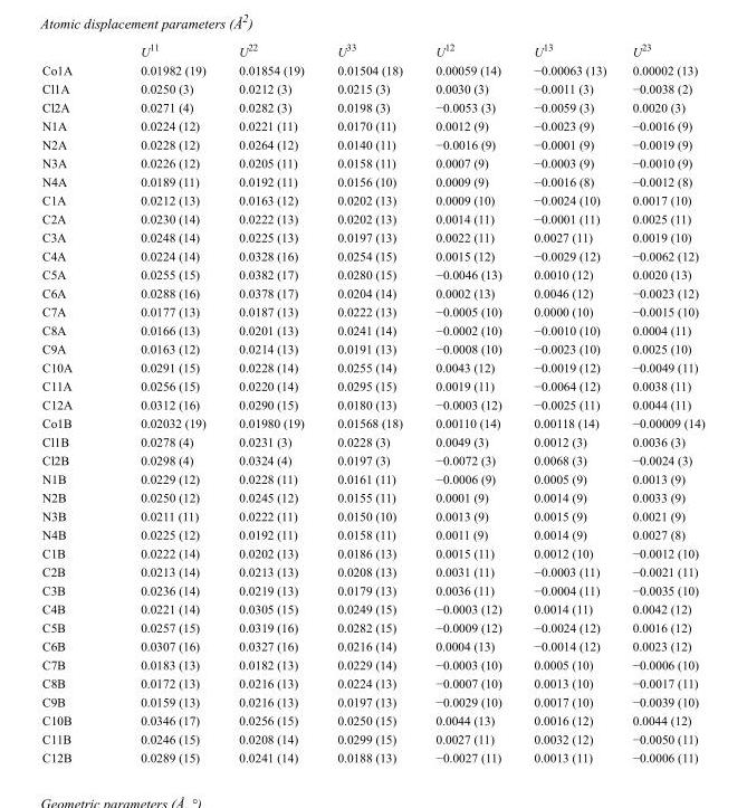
<table><thead><tr><td></td><td>U<sup>11</sup></td><td>U<sup>22</sup></td><td>U<sup>33</sup></td><td>U<sup>12</sup></td><td>U<sup>13</sup></td><td>U<sup>23</sup></td></tr></thead><tbody><tr><td>Co1A</td><td>0.01982 (19)</td><td>0.01854 (19)</td><td>0.01504 (18)</td><td>0.00059 (14)</td><td>−0.00063 (13)</td><td>0.00002 (13)</td></tr><tr><td>Cl1A</td><td>0.0250 (3)</td><td>0.0212 (3)</td><td>0.0215 (3)</td><td>0.0030 (3)</td><td>−0.0011 (3)</td><td>−0.0038 (2)</td></tr><tr><td>Cl2A</td><td>0.0271 (4)</td><td>0.0282 (3)</td><td>0.0198 (3)</td><td>−0.0053 (3)</td><td>−0.0059 (3)</td><td>0.0020 (3)</td></tr><tr><td>N1A</td><td>0.0224 (12)</td><td>0.0221 (11)</td><td>0.0170 (11)</td><td>0.0012 (9)</td><td>−0.0023 (9)</td><td>−0.0016 (9)</td></tr><tr><td>N2A</td><td>0.0228 (12)</td><td>0.0264 (12)</td><td>0.0140 (11)</td><td>−0.0016 (9)</td><td>−0.0001 (9)</td><td>−0.0019 (9)</td></tr><tr><td>N3A</td><td>0.0226 (12)</td><td>0.0205 (11)</td><td>0.0158 (11)</td><td>0.0007 (9)</td><td>−0.0003 (9)</td><td>−0.0010 (9)</td></tr><tr><td>N4A</td><td>0.0189 (11)</td><td>0.0192 (11)</td><td>0.0156 (10)</td><td>0.0009 (9)</td><td>−0.0016 (8)</td><td>−0.0012 (8)</td></tr><tr><td>C1A</td><td>0.0212 (13)</td><td>0.0163 (12)</td><td>0.0202 (13)</td><td>0.0009 (10)</td><td>−0.0024 (10)</td><td>0.0017 (10)</td></tr><tr><td>C2A</td><td>0.0230 (14)</td><td>0.0222 (13)</td><td>0.0202 (13)</td><td>0.0014 (11)</td><td>−0.0001 (11)</td><td>0.0025 (11)</td></tr><tr><td>C3A</td><td>0.0248 (14)</td><td>0.0225 (13)</td><td>0.0197 (13)</td><td>0.0022 (11)</td><td>0.0027 (11)</td><td>0.0019 (10)</td></tr><tr><td>C4A</td><td>0.0224 (14)</td><td>0.0328 (16)</td><td>0.0254 (15)</td><td>0.0015 (12)</td><td>−0.0029 (12)</td><td>−0.0062 (12)</td></tr><tr><td>C5A</td><td>0.0255 (15)</td><td>0.0382 (17)</td><td>0.0280 (15)</td><td>−0.0046 (13)</td><td>0.0010 (12)</td><td>0.0020 (13)</td></tr><tr><td>C6A</td><td>0.0288 (16)</td><td>0.0378 (17)</td><td>0.0204 (14)</td><td>0.0002 (13)</td><td>0.0046 (12)</td><td>−0.0023 (12)</td></tr><tr><td>C7A</td><td>0.0177 (13)</td><td>0.0187 (13)</td><td>0.0222 (13)</td><td>−0.0005 (10)</td><td>0.0000 (10)</td><td>−0.0015 (10)</td></tr><tr><td>C8A</td><td>0.0166 (13)</td><td>0.0201 (13)</td><td>0.0241 (14)</td><td>−0.0002 (10)</td><td>−0.0010 (10)</td><td>0.0004 (11)</td></tr><tr><td>C9A</td><td>0.0163 (12)</td><td>0.0214 (13)</td><td>0.0191 (13)</td><td>−0.0008 (10)</td><td>−0.0023 (10)</td><td>0.0025 (10)</td></tr><tr><td>C10A</td><td>0.0291 (15)</td><td>0.0228 (14)</td><td>0.0255 (14)</td><td>0.0043 (12)</td><td>−0.0019 (12)</td><td>−0.0049 (11)</td></tr><tr><td>C11A</td><td>0.0256 (15)</td><td>0.0220 (14)</td><td>0.0295 (15)</td><td>0.0019 (11)</td><td>−0.0064 (12)</td><td>0.0038 (11)</td></tr><tr><td>C12A</td><td>0.0312 (16)</td><td>0.0290 (15)</td><td>0.0180 (13)</td><td>−0.0003 (12)</td><td>−0.0025 (11)</td><td>0.0044 (11)</td></tr><tr><td>Co1B</td><td>0.02032 (19)</td><td>0.01980 (19)</td><td>0.01568 (18)</td><td>0.00110 (14)</td><td>0.00118 (14)</td><td>−0.00009 (14)</td></tr><tr><td>Cl1B</td><td>0.0278 (4)</td><td>0.0231 (3)</td><td>0.0228 (3)</td><td>0.0049 (3)</td><td>0.0012 (3)</td><td>0.0036 (3)</td></tr><tr><td>Cl2B</td><td>0.0298 (4)</td><td>0.0324 (4)</td><td>0.0197 (3)</td><td>−0.0072 (3)</td><td>0.0068 (3)</td><td>−0.0024 (3)</td></tr><tr><td>N1B</td><td>0.0229 (12)</td><td>0.0228 (11)</td><td>0.0161 (11)</td><td>−0.0006 (9)</td><td>0.0005 (9)</td><td>0.0013 (9)</td></tr><tr><td>N2B</td><td>0.0250 (12)</td><td>0.0245 (12)</td><td>0.0155 (11)</td><td>0.0001 (9)</td><td>0.0014 (9)</td><td>0.0033 (9)</td></tr><tr><td>N3B</td><td>0.0211 (11)</td><td>0.0222 (11)</td><td>0.0150 (10)</td><td>0.0013 (9)</td><td>0.0015 (9)</td><td>0.0021 (9)</td></tr><tr><td>N4B</td><td>0.0225 (12)</td><td>0.0192 (11)</td><td>0.0158 (11)</td><td>0.0011 (9)</td><td>0.0014 (9)</td><td>0.0027 (8)</td></tr><tr><td>C1B</td><td>0.0222 (14)</td><td>0.0202 (13)</td><td>0.0186 (13)</td><td>0.0015 (11)</td><td>0.0012 (10)</td><td>−0.0012 (10)</td></tr><tr><td>C2B</td><td>0.0213 (14)</td><td>0.0213 (13)</td><td>0.0208 (13)</td><td>0.0031 (11)</td><td>−0.0003 (11)</td><td>−0.0021 (11)</td></tr><tr><td>C3B</td><td>0.0236 (14)</td><td>0.0219 (13)</td><td>0.0179 (13)</td><td>0.0036 (11)</td><td>−0.0004 (11)</td><td>−0.0035 (10)</td></tr><tr><td>C4B</td><td>0.0221 (14)</td><td>0.0305 (15)</td><td>0.0249 (15)</td><td>−0.0003 (12)</td><td>0.0014 (11)</td><td>0.0042 (12)</td></tr><tr><td>C5B</td><td>0.0257 (15)</td><td>0.0319 (16)</td><td>0.0282 (15)</td><td>−0.0009 (12)</td><td>−0.0024 (12)</td><td>0.0016 (12)</td></tr><tr><td>C6B</td><td>0.0307 (16)</td><td>0.0327 (16)</td><td>0.0216 (14)</td><td>0.0004 (13)</td><td>−0.0014 (12)</td><td>0.0023 (12)</td></tr><tr><td>C7B</td><td>0.0183 (13)</td><td>0.0182 (13)</td><td>0.0229 (14)</td><td>−0.0003 (10)</td><td>0.0005 (10)</td><td>−0.0006 (10)</td></tr><tr><td>C8B</td><td>0.0172 (13)</td><td>0.0216 (13)</td><td>0.0224 (13)</td><td>−0.0007 (10)</td><td>0.0013 (10)</td><td>−0.0017 (11)</td></tr><tr><td>C9B</td><td>0.0159 (13)</td><td>0.0216 (13)</td><td>0.0197 (13)</td><td>−0.0029 (10)</td><td>0.0017 (10)</td><td>−0.0039 (10)</td></tr><tr><td>C10B</td><td>0.0346 (17)</td><td>0.0256 (15)</td><td>0.0250 (15)</td><td>0.0044 (13)</td><td>0.0016 (12)</td><td>0.0044 (12)</td></tr><tr><td>C11B</td><td>0.0246 (15)</td><td>0.0208 (14)</td><td>0.0299 (15)</td><td>0.0027 (11)</td><td>0.0032 (12)</td><td>−0.0050 (11)</td></tr><tr><td>C12B</td><td>0.0289 (15)</td><td>0.0241 (14)</td><td>0.0188 (13)</td><td>−0.0027 (11)</td><td>0.0013 (11)</td><td>−0.0006 (11)</td></tr></tbody></table>